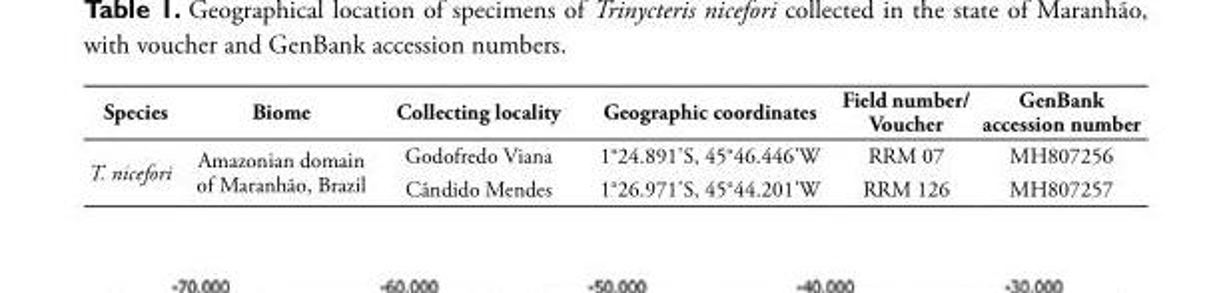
<table><thead><tr><td>Species</td><td>Biome</td><td>Collecting locality</td><td>Geographic coordinates</td><td>Field number/ Voucher</td><td>GenBank accession number</td></tr></thead><tbody><tr><td rowspan="2">T. nicefori</td><td rowspan="2">Amazonian domain of Maranhão, Brazil</td><td>Godofredo Viana</td><td>1°24.891&#x27;S, 45°46.446&#x27;W</td><td>RRM 07</td><td>MH807256</td></tr><tr><td>Cândido Mendes</td><td>1°26.971&#x27;S, 45°44.201&#x27;W</td><td>RRM 126</td><td>MH807257</td></tr></tbody></table>